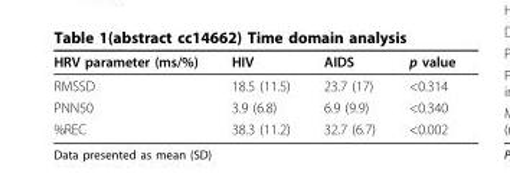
<table><thead><tr><td>HRV parameter (ms/%)</td><td>HIV</td><td>AIDS</td><td>p value</td></tr></thead><tbody><tr><td>RMSSD</td><td>18.5 (11.5)</td><td>23.7 (17)</td><td>&lt;0.314</td></tr><tr><td>PNN50</td><td>3.9 (6.8)</td><td>6.9 (9.9)</td><td>&lt;0.340</td></tr><tr><td>%REC</td><td>38.3 (11.2)</td><td>32.7 (6.7)</td><td>&lt;0.002</td></tr></tbody></table>